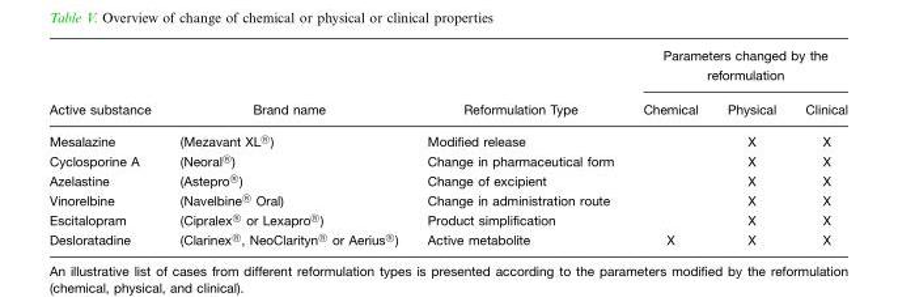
<table><thead><tr><td rowspan="2">Active substance</td><td rowspan="2">Brand name</td><td rowspan="2">Reformulation Type</td><td colspan="3">Parameters changed by the reformulation</td></tr><tr><td>Chemical</td><td>Physical</td><td>Clinical</td></tr></thead><tbody><tr><td>Mesalazine</td><td>(Mezavant XL†)</td><td>Modified release</td><td></td><td>X</td><td>X</td></tr><tr><td>Cyclosporine A</td><td>(Neoral†)</td><td>Change in pharmaceutical form</td><td></td><td>X</td><td>X</td></tr><tr><td>Azelastine</td><td>(Astepro†)</td><td>Change of excipient</td><td></td><td>X</td><td>X</td></tr><tr><td>Vinorelbine</td><td>(Navelbine† Oral)</td><td>Change in administration route</td><td></td><td>X</td><td>X</td></tr><tr><td>Escitalopram</td><td>(Cipralex† or Lexapro†)</td><td>Product simplification</td><td></td><td>X</td><td>X</td></tr><tr><td>Desloratadine</td><td>(Clarinex†, NeoClarityn† or Aerius†)</td><td>Active metabolite</td><td>X</td><td>X</td><td>X</td></tr></tbody></table>